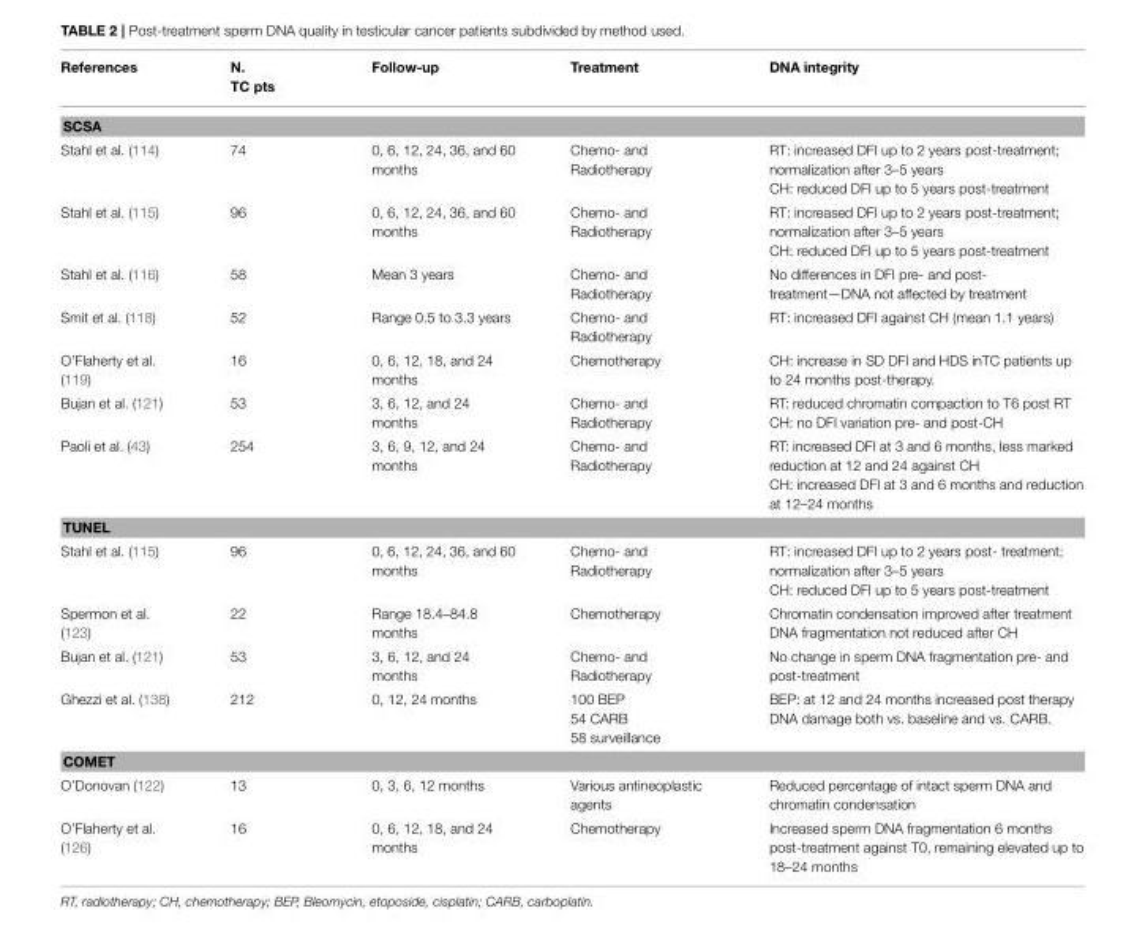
<table><thead><tr><td>References</td><td>N. TC pts</td><td>Follow-up</td><td>Treatment</td><td>DNA integrity</td></tr></thead><tbody><tr><td colspan="5">SCSA</td></tr><tr><td>Stahl et al. (114)</td><td>74</td><td>0, 6, 12, 24, 36, and 60 months</td><td>Chemo- and Radiotherapy</td><td>RT: increased DFI up to 2 years post-treatment; normalization after 3–5 years CH: reduced DFI up to 5 years post-treatment</td></tr><tr><td>Stahl et al. (115)</td><td>96</td><td>0, 6, 12, 24, 36, and 60 months</td><td>Chemo- and Radiotherapy</td><td>RT: increased DFI up to 2 years post-treatment; normalization after 3–5 years CH: reduced DFI up to 5 years post-treatment</td></tr><tr><td>Stahl et al. (116)</td><td>58</td><td>Mean 3 years</td><td>Chemo- and Radiotherapy</td><td>No differences in DFI pre- and post- treatment—DNA not affected by treatment</td></tr><tr><td>Smit et al. (118)</td><td>52</td><td>Range 0.5 to 3.3 years</td><td>Chemo- and Radiotherapy</td><td>RT: increased DFI against CH (mean 1.1 years)</td></tr><tr><td>O’Flaherty et al. (119)</td><td>16</td><td>0, 6, 12, 18, and 24 months</td><td>Chemotherapy</td><td>CH: increase in SD DFI and HDS inTC patients up to 24 months post-therapy.</td></tr><tr><td>Bujan et al. (121)</td><td>53</td><td>3, 6, 12, and 24 months</td><td>Chemo- and Radiotherapy</td><td>RT: reduced chromatin compaction to T6 post RT CH: no DFI variation pre- and post-CH</td></tr><tr><td>Paoli et al. (43)</td><td>254</td><td>3, 6, 9, 12, and 24 months</td><td>Chemo- and Radiotherapy</td><td>RT: increased DFI at 3 and 6 months, less marked reduction at 12 and 24 against CH CH: increased DFI at 3 and 6 months and reduction at 12–24 months</td></tr><tr><td colspan="5">TUNEL</td></tr><tr><td>Stahl et al. (115)</td><td>96</td><td>0, 6, 12, 24, 36, and 60 months</td><td>Chemo- and Radiotherapy</td><td>RT: increased DFI up to 2 years post- treatment; normalization after 3–5 years CH: reduced DFI up to 5 years post-treatment</td></tr><tr><td>Spermon et al. (123)</td><td>22</td><td>Range 18.4–84.8 months</td><td>Chemotherapy</td><td>Chromatin condensation improved after treatment DNA fragmentation not reduced after CH</td></tr><tr><td>Bujan et al. (121)</td><td>53</td><td>3, 6, 12, and 24 months</td><td>Chemo- and Radiotherapy</td><td>No change in sperm DNA fragmentation pre- and post-treatment</td></tr><tr><td>Ghezzi et al. (138)</td><td>212</td><td>0, 12, 24 months</td><td>100 BEP 54 CARB 58 surveillance</td><td>BEP: at 12 and 24 months increased post therapy DNA damage both vs. baseline and vs. CARB.</td></tr><tr><td colspan="5">COMET</td></tr><tr><td>O’Donovan (122)</td><td>13</td><td>0, 3, 6, 12 months</td><td>Various antineoplastic agents</td><td>Reduced percentage of intact sperm DNA and chromatin condensation</td></tr><tr><td>O’Flaherty et al. (126)</td><td>16</td><td>0, 6, 12, 18, and 24 months</td><td>Chemotherapy</td><td>Increased sperm DNA fragmentation 6 months post-treatment against T0, remaining elevated up to 18–24 months</td></tr></tbody></table>